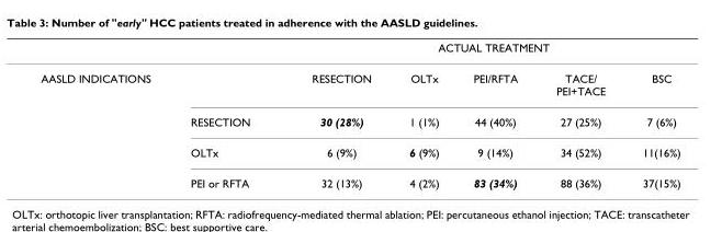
<table><thead><tr><td rowspan="2">AASLD INDICATIONS</td><td rowspan="2"></td><td colspan="5">ACTUAL TREATMENT</td></tr><tr><td>RESECTION</td><td>OLTx</td><td>PEI/RFTA</td><td>TACE/ PEI+TACE</td><td>BSC</td></tr></thead><tbody><tr><td></td><td>RESECTION</td><td>30 (28%)</td><td>1 (1%)</td><td>44 (40%)</td><td>27 (25%)</td><td>7 (6%)</td></tr><tr><td></td><td>OLTx</td><td>6 (9%)</td><td>6 (9%)</td><td>9 (14%)</td><td>34 (52%)</td><td>11(16%)</td></tr><tr><td></td><td>PEI or RFTA</td><td>32 (13%)</td><td>4 (2%)</td><td>83 (34%)</td><td>88 (36%)</td><td>37(15%)</td></tr></tbody></table>